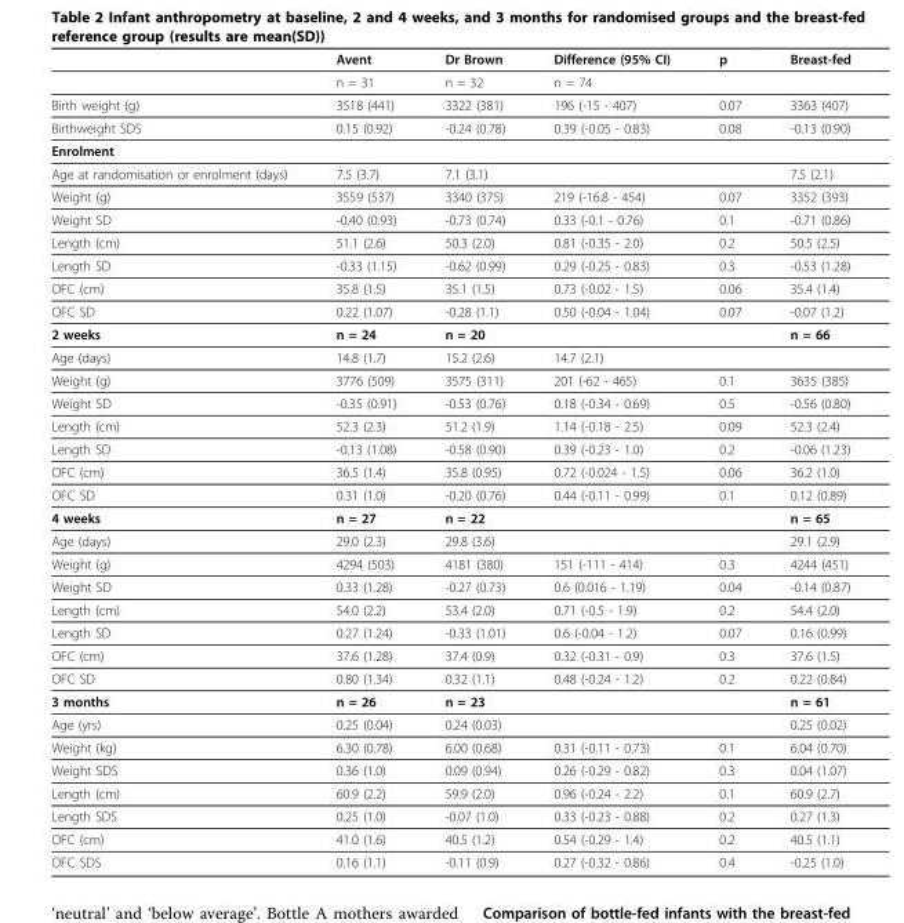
<table><thead><tr><td></td><td>Avent</td><td>Dr Brown</td><td>Difference (95% CI)</td><td>p</td><td>Breast-fed</td></tr></thead><tbody><tr><td></td><td>n = 31</td><td>n = 32</td><td>n = 74</td><td></td><td></td></tr><tr><td>Birth weight (g)</td><td>3518 (441)</td><td>3322 (381)</td><td>196 (-15 - 407)</td><td>0.07</td><td>3363 (407)</td></tr><tr><td>Birthweight SDS</td><td>0.15 (0.92)</td><td>-0.24 (0.78)</td><td>0.39 (-0.05 - 0.83)</td><td>0.08</td><td>-0.13 (0.90)</td></tr><tr><td colspan="6">Enrolment</td></tr><tr><td>Age at randomisation or enrolment (days)</td><td>7.5 (3.7)</td><td>7.1 (3.1)</td><td></td><td></td><td>7.5 (2.1)</td></tr><tr><td>Weight (g)</td><td>3559 (537)</td><td>3340 (375)</td><td>219 (-16.8 - 454)</td><td>0.07</td><td>3352 (393)</td></tr><tr><td>Weight SD</td><td>-0.40 (0.93)</td><td>-0.73 (0.74)</td><td>0.33 (-0.1 - 0.76)</td><td>0.1</td><td>-0.71 (0.86)</td></tr><tr><td>Length (cm)</td><td>51.1 (2.6)</td><td>50.3 (2.0)</td><td>0.81 (-0.35 - 2.0)</td><td>0.2</td><td>50.5 (2.5)</td></tr><tr><td>Length SD</td><td>-0.33 (1.15)</td><td>-0.62 (0.99)</td><td>0.29 (-0.25 - 0.83)</td><td>0.3</td><td>-0.53 (1.28)</td></tr><tr><td>OFC (cm)</td><td>35.8 (1.5)</td><td>35.1 (1.5)</td><td>0.73 (-0.02 - 1.5)</td><td>0.06</td><td>35.4 (1.4)</td></tr><tr><td>OFC SD</td><td>0.22 (1.07)</td><td>-0.28 (1.1)</td><td>0.50 (-0.04 - 1.04)</td><td>0.07</td><td>-0.07 (1.2)</td></tr><tr><td>2 weeks</td><td>n = 24</td><td>n = 20</td><td></td><td></td><td>n = 66</td></tr><tr><td>Age (days)</td><td>14.8 (1.7)</td><td>15.2 (2.6)</td><td>14.7 (2.1)</td><td></td><td></td></tr><tr><td>Weight (g)</td><td>3776 (509)</td><td>3575 (311)</td><td>201 (-62 - 465)</td><td>0.1</td><td>3635 (385)</td></tr><tr><td>Weight SD</td><td>-0.35 (0.91)</td><td>-0.53 (0.76)</td><td>0.18 (-0.34 - 0.69)</td><td>0.5</td><td>-0.56 (0.80)</td></tr><tr><td>Length (cm)</td><td>52.3 (2.3)</td><td>51.2 (1.9)</td><td>1.14 (-0.18 - 2.5)</td><td>0.09</td><td>52.3 (2.4)</td></tr><tr><td>Length SD</td><td>-0.13 (1.08)</td><td>-0.58 (0.90)</td><td>0.39 (-0.23 - 1.0)</td><td>0.2</td><td>-0.06 (1.23)</td></tr><tr><td>OFC (cm)</td><td>36.5 (1.4)</td><td>35.8 (0.95)</td><td>0.72 (-0.024 - 1.5)</td><td>0.06</td><td>36.2 (1.0)</td></tr><tr><td>OFC SD</td><td>0.31 (1.0)</td><td>-0.20 (0.76)</td><td>0.44 (-0.11 - 0.99)</td><td>0.1</td><td>0.12 (0.89)</td></tr><tr><td>4 weeks</td><td>n = 27</td><td>n = 22</td><td></td><td></td><td>n = 65</td></tr><tr><td>Age (days)</td><td>29.0 (2.3)</td><td>29.8 (3.6)</td><td></td><td></td><td>29.1 (2.9)</td></tr><tr><td>Weight (g)</td><td>4294 (503)</td><td>4181 (380)</td><td>151 (-111 - 414)</td><td>0.3</td><td>4244 (451)</td></tr><tr><td>Weight SD</td><td>0.33 (1.28)</td><td>-0.27 (0.73)</td><td>0.6 (0.016 - 1.19)</td><td>0.04</td><td>-0.14 (0.87)</td></tr><tr><td>Length (cm)</td><td>54.0 (2.2)</td><td>53.4 (2.0)</td><td>0.71 (-0.5 - 1.9)</td><td>0.2</td><td>54.4 (2.0)</td></tr><tr><td>Length SD</td><td>0.27 (1.24)</td><td>-0.33 (1.01)</td><td>0.6 (-0.04 - 1.2)</td><td>0.07</td><td>0.16 (0.99)</td></tr><tr><td>OFC (cm)</td><td>37.6 (1.28)</td><td>37.4 (0.9)</td><td>0.32 (-0.31 - 0.9)</td><td>0.3</td><td>37.6 (1.5)</td></tr><tr><td>OFC SD</td><td>0.80 (1.34)</td><td>0.32 (1.1)</td><td>0.48 (-0.24 - 1.2)</td><td>0.2</td><td>0.22 (0.84)</td></tr><tr><td>3 months</td><td>n = 26</td><td>n = 23</td><td></td><td></td><td>n = 61</td></tr><tr><td>Age (yrs)</td><td>0.25 (0.04)</td><td>0.24 (0.03)</td><td></td><td></td><td>0.25 (0.02)</td></tr><tr><td>Weight (kg)</td><td>6.30 (0.78)</td><td>6.00 (0.68)</td><td>0.31 (-0.11 - 0.73)</td><td>0.1</td><td>6.04 (0.70)</td></tr><tr><td>Weight SDS</td><td>0.36 (1.0)</td><td>0.09 (0.94)</td><td>0.26 (-0.29 - 0.82)</td><td>0.3</td><td>0.04 (1.07)</td></tr><tr><td>Length (cm)</td><td>60.9 (2.2)</td><td>59.9 (2.0)</td><td>0.96 (-0.24 - 2.2)</td><td>0.1</td><td>60.9 (2.7)</td></tr><tr><td>Length SDS</td><td>0.25 (1.0)</td><td>-0.07 (1.0)</td><td>0.33 (-0.23 - 0.88)</td><td>0.2</td><td>0.27 (1.3)</td></tr><tr><td>OFC (cm)</td><td>41.0 (1.6)</td><td>40.5 (1.2)</td><td>0.54 (-0.29 - 1.4)</td><td>0.2</td><td>40.5 (1.1)</td></tr><tr><td>OFC SDS</td><td>0.16 (1.1)</td><td>-0.11 (0.9)</td><td>0.27 (-0.32 - 0.86)</td><td>0.4</td><td>-0.25 (1.0)</td></tr></tbody></table>